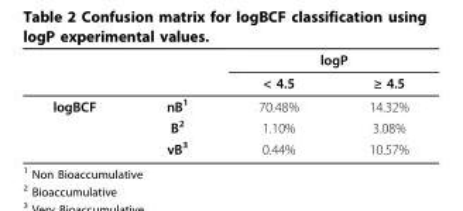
<table><thead><tr><td rowspan="2"></td><td rowspan="2"></td><td colspan="2">logP</td></tr><tr><td>&lt; 4.5</td><td>≥ 4.5</td></tr></thead><tbody><tr><td rowspan="3">logBCF</td><td>nB<sup>1</sup></td><td>70.48%</td><td>14.32%</td></tr><tr><td>B<sup>2</sup></td><td>1.10%</td><td>3.08%</td></tr><tr><td>vB<sup>3</sup></td><td>0.44%</td><td>10.57%</td></tr></tbody></table>